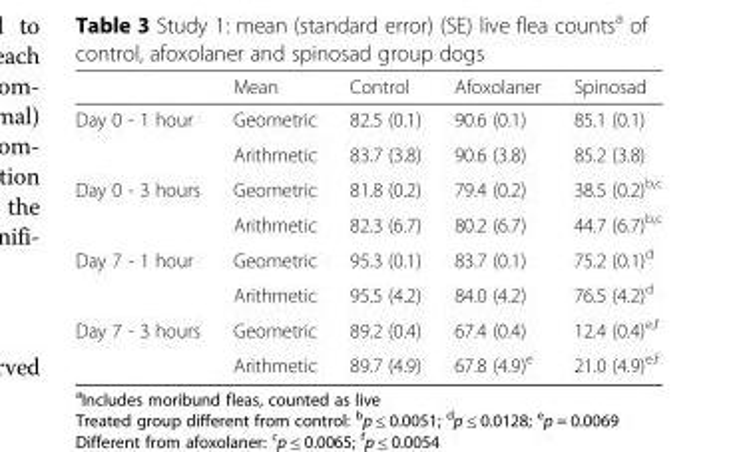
<table><thead><tr><td></td><td>Mean</td><td>Control</td><td>Afoxolaner</td><td>Spinosad</td></tr></thead><tbody><tr><td rowspan="2">Day 0 - 1 hour</td><td>Geometric</td><td>82.5 (0.1)</td><td>90.6 (0.1)</td><td>85.1 (0.1)</td></tr><tr><td>Arithmetic</td><td>83.7 (3.8)</td><td>90.6 (3.8)</td><td>85.2 (3.8)</td></tr><tr><td rowspan="2">Day 0 - 3 hours</td><td>Geometric</td><td>81.8 (0.2)</td><td>79.4 (0.2)</td><td>38.5 (0.2)<sup>b,c</sup></td></tr><tr><td>Arithmetic</td><td>82.3 (6.7)</td><td>80.2 (6.7)</td><td>44.7 (6.7)<sup>b,c</sup></td></tr><tr><td rowspan="2">Day 7 - 1 hour</td><td>Geometric</td><td>95.3 (0.1)</td><td>83.7 (0.1)</td><td>75.2 (0.1)<sup>d</sup></td></tr><tr><td>Arithmetic</td><td>95.5 (4.2)</td><td>84.0 (4.2)</td><td>76.5 (4.2)<sup>d</sup></td></tr><tr><td rowspan="2">Day 7 - 3 hours</td><td>Geometric</td><td>89.2 (0.4)</td><td>67.4 (0.4)</td><td>12.4 (0.4)<sup>e,f</sup></td></tr><tr><td>Arithmetic</td><td>89.7 (4.9)</td><td>67.8 (4.9)<sup>e</sup></td><td>21.0 (4.9)<sup>e,f</sup></td></tr></tbody></table>